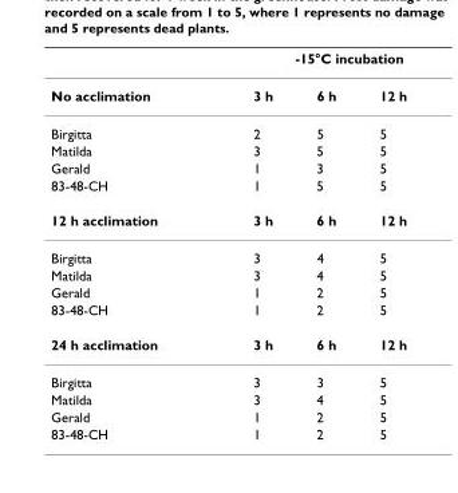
<table><thead><tr><td rowspan="2">No acclimation</td><td colspan="3">-15°C incubation</td></tr><tr><td>3 h</td><td>6 h</td><td>12 h</td></tr></thead><tbody><tr><td>Birgitta</td><td>2</td><td>5</td><td>5</td></tr><tr><td>Matilda</td><td>3</td><td>5</td><td>5</td></tr><tr><td>Gerald</td><td>1</td><td>3</td><td>5</td></tr><tr><td>83-48-CH</td><td>1</td><td>5</td><td>5</td></tr><tr><td>12 h acclimation</td><td>3 h</td><td>6 h</td><td>12 h</td></tr><tr><td>Birgitta</td><td>3</td><td>4</td><td>5</td></tr><tr><td>Matilda</td><td>3</td><td>4</td><td>5</td></tr><tr><td>Gerald</td><td>1</td><td>2</td><td>5</td></tr><tr><td>83-48-CH</td><td>1</td><td>2</td><td>5</td></tr><tr><td>24 h acclimation</td><td>3 h</td><td>6 h</td><td>12 h</td></tr><tr><td>Birgitta</td><td>3</td><td>3</td><td>5</td></tr><tr><td>Matilda</td><td>3</td><td>4</td><td>5</td></tr><tr><td>Gerald</td><td>1</td><td>2</td><td>5</td></tr><tr><td>83-48-CH</td><td>1</td><td>2</td><td>5</td></tr></tbody></table>